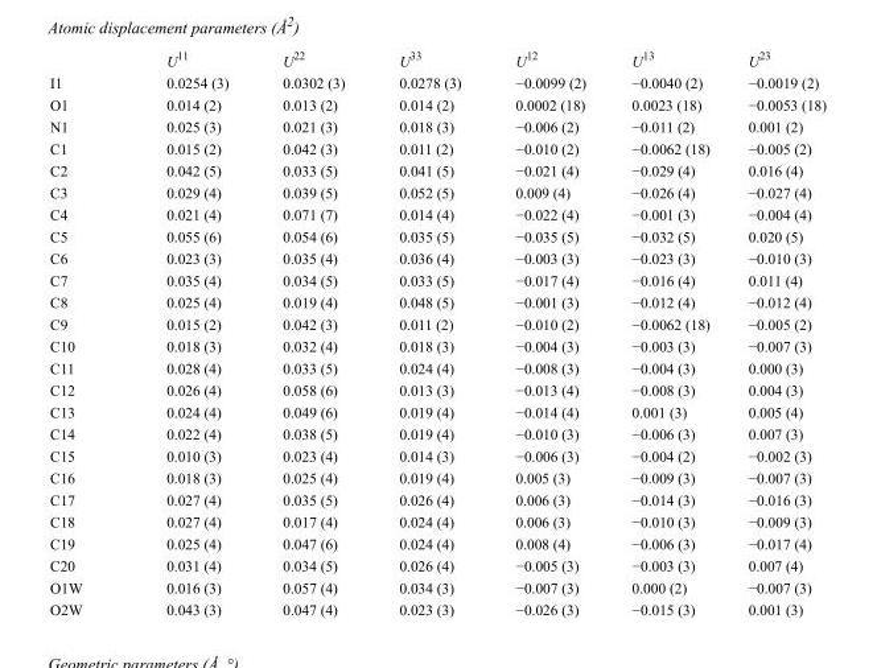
<table><thead><tr><td></td><td>U<sup>11</sup></td><td>U<sup>22</sup></td><td>U<sup>33</sup></td><td>U<sup>12</sup></td><td>U<sup>13</sup></td><td>U<sup>23</sup></td></tr></thead><tbody><tr><td>I1</td><td>0.0254 (3)</td><td>0.0302 (3)</td><td>0.0278 (3)</td><td>−0.0099 (2)</td><td>−0.0040 (2)</td><td>−0.0019 (2)</td></tr><tr><td>O1</td><td>0.014 (2)</td><td>0.013 (2)</td><td>0.014 (2)</td><td>0.0002 (18)</td><td>0.0023 (18)</td><td>−0.0053 (18)</td></tr><tr><td>N1</td><td>0.025 (3)</td><td>0.021 (3)</td><td>0.018 (3)</td><td>−0.006 (2)</td><td>−0.011 (2)</td><td>0.001 (2)</td></tr><tr><td>C1</td><td>0.015 (2)</td><td>0.042 (3)</td><td>0.011 (2)</td><td>−0.010 (2)</td><td>−0.0062 (18)</td><td>−0.005 (2)</td></tr><tr><td>C2</td><td>0.042 (5)</td><td>0.033 (5)</td><td>0.041 (5)</td><td>−0.021 (4)</td><td>−0.029 (4)</td><td>0.016 (4)</td></tr><tr><td>C3</td><td>0.029 (4)</td><td>0.039 (5)</td><td>0.052 (5)</td><td>0.009 (4)</td><td>−0.026 (4)</td><td>−0.027 (4)</td></tr><tr><td>C4</td><td>0.021 (4)</td><td>0.071 (7)</td><td>0.014 (4)</td><td>−0.022 (4)</td><td>−0.001 (3)</td><td>−0.004 (4)</td></tr><tr><td>C5</td><td>0.055 (6)</td><td>0.054 (6)</td><td>0.035 (5)</td><td>−0.035 (5)</td><td>−0.032 (5)</td><td>0.020 (5)</td></tr><tr><td>C6</td><td>0.023 (3)</td><td>0.035 (4)</td><td>0.036 (4)</td><td>−0.003 (3)</td><td>−0.023 (3)</td><td>−0.010 (3)</td></tr><tr><td>C7</td><td>0.035 (4)</td><td>0.034 (5)</td><td>0.033 (5)</td><td>−0.017 (4)</td><td>−0.016 (4)</td><td>0.011 (4)</td></tr><tr><td>C8</td><td>0.025 (4)</td><td>0.019 (4)</td><td>0.048 (5)</td><td>−0.001 (3)</td><td>−0.012 (4)</td><td>−0.012 (4)</td></tr><tr><td>C9</td><td>0.015 (2)</td><td>0.042 (3)</td><td>0.011 (2)</td><td>−0.010 (2)</td><td>−0.0062 (18)</td><td>−0.005 (2)</td></tr><tr><td>C10</td><td>0.018 (3)</td><td>0.032 (4)</td><td>0.018 (3)</td><td>−0.004 (3)</td><td>−0.003 (3)</td><td>−0.007 (3)</td></tr><tr><td>C11</td><td>0.028 (4)</td><td>0.033 (5)</td><td>0.024 (4)</td><td>−0.008 (3)</td><td>−0.004 (3)</td><td>0.000 (3)</td></tr><tr><td>C12</td><td>0.026 (4)</td><td>0.058 (6)</td><td>0.013 (3)</td><td>−0.013 (4)</td><td>−0.008 (3)</td><td>0.004 (3)</td></tr><tr><td>C13</td><td>0.024 (4)</td><td>0.049 (6)</td><td>0.019 (4)</td><td>−0.014 (4)</td><td>0.001 (3)</td><td>0.005 (4)</td></tr><tr><td>C14</td><td>0.022 (4)</td><td>0.038 (5)</td><td>0.019 (4)</td><td>−0.010 (3)</td><td>−0.006 (3)</td><td>0.007 (3)</td></tr><tr><td>C15</td><td>0.010 (3)</td><td>0.023 (4)</td><td>0.014 (3)</td><td>−0.006 (3)</td><td>−0.004 (2)</td><td>−0.002 (3)</td></tr><tr><td>C16</td><td>0.018 (3)</td><td>0.025 (4)</td><td>0.019 (4)</td><td>0.005 (3)</td><td>−0.009 (3)</td><td>−0.007 (3)</td></tr><tr><td>C17</td><td>0.027 (4)</td><td>0.035 (5)</td><td>0.026 (4)</td><td>0.006 (3)</td><td>−0.014 (3)</td><td>−0.016 (3)</td></tr><tr><td>C18</td><td>0.027 (4)</td><td>0.017 (4)</td><td>0.024 (4)</td><td>0.006 (3)</td><td>−0.010 (3)</td><td>−0.009 (3)</td></tr><tr><td>C19</td><td>0.025 (4)</td><td>0.047 (6)</td><td>0.024 (4)</td><td>0.008 (4)</td><td>−0.006 (3)</td><td>−0.017 (4)</td></tr><tr><td>C20</td><td>0.031 (4)</td><td>0.034 (5)</td><td>0.026 (4)</td><td>−0.005 (3)</td><td>−0.003 (3)</td><td>0.007 (4)</td></tr><tr><td>O1W</td><td>0.016 (3)</td><td>0.057 (4)</td><td>0.034 (3)</td><td>−0.007 (3)</td><td>0.000 (2)</td><td>−0.007 (3)</td></tr><tr><td>O2W</td><td>0.043 (3)</td><td>0.047 (4)</td><td>0.023 (3)</td><td>−0.026 (3)</td><td>−0.015 (3)</td><td>0.001 (3)</td></tr></tbody></table>